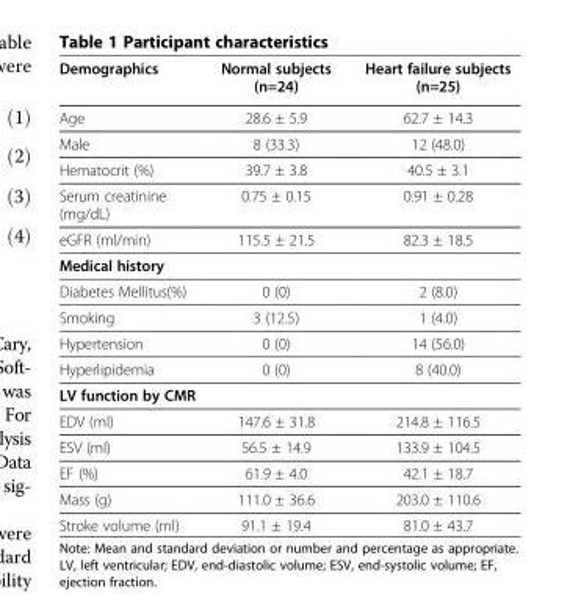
<table><thead><tr><td>Demographics</td><td>Normal subjects (n=24)</td><td>Heart failure subjects (n=25)</td></tr></thead><tbody><tr><td>Age</td><td>28.6 ± 5.9</td><td>62.7 ± 14.3</td></tr><tr><td>Male</td><td>8 (33.3)</td><td>12 (48.0)</td></tr><tr><td>Hematocrit (%)</td><td>39.7 ± 3.8</td><td>40.5 ± 3.1</td></tr><tr><td>Serum creatinine (mg/dL)</td><td>0.75 ± 0.15</td><td>0.91 ± 0.28</td></tr><tr><td>eGFR (ml/min)</td><td>115.5 ± 21.5</td><td>82.3 ± 18.5</td></tr><tr><td colspan="3">Medical history</td></tr><tr><td>Diabetes Mellitus(%)</td><td>0 (0)</td><td>2 (8.0)</td></tr><tr><td>Smoking</td><td>3 (12.5)</td><td>1 (4.0)</td></tr><tr><td>Hypertension</td><td>0 (0)</td><td>14 (56.0)</td></tr><tr><td>Hyperlipidemia</td><td>0 (0)</td><td>8 (40.0)</td></tr><tr><td colspan="3">LV function by CMR</td></tr><tr><td>EDV (ml)</td><td>147.6 ± 31.8</td><td>214.8 ± 116.5</td></tr><tr><td>ESV (ml)</td><td>56.5 ± 14.9</td><td>133.9 ± 104.5</td></tr><tr><td>EF (%)</td><td>61.9 ± 4.0</td><td>42.1 ± 18.7</td></tr><tr><td>Mass (g)</td><td>111.0 ± 36.6</td><td>203.0 ± 110.6</td></tr><tr><td>Stroke volume (ml)</td><td>91.1 ± 19.4</td><td>81.0 ± 43.7</td></tr></tbody></table>